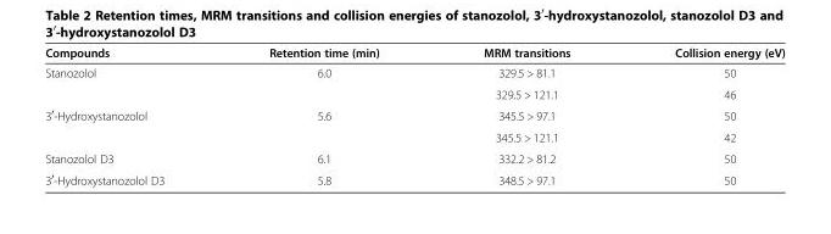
<table><thead><tr><td>Compounds</td><td>Retention time (min)</td><td>MRM transitions</td><td>Collision energy (eV)</td></tr></thead><tbody><tr><td rowspan="2">Stanozolol</td><td>6.0</td><td>329.5 &gt; 81.1</td><td>50</td></tr><tr><td></td><td>329.5 &gt; 121.1</td><td>46</td></tr><tr><td rowspan="2">3<sup>′</sup>-Hydroxystanozolol</td><td>5.6</td><td>345.5 &gt; 97.1</td><td>50</td></tr><tr><td></td><td>345.5 &gt; 121.1</td><td>42</td></tr><tr><td>Stanozolol D3</td><td>6.1</td><td>332.2 &gt; 81.2</td><td>50</td></tr><tr><td>3<sup>′</sup>-Hydroxystanozolol D3</td><td>5.8</td><td>348.5 &gt; 97.1</td><td>50</td></tr></tbody></table>